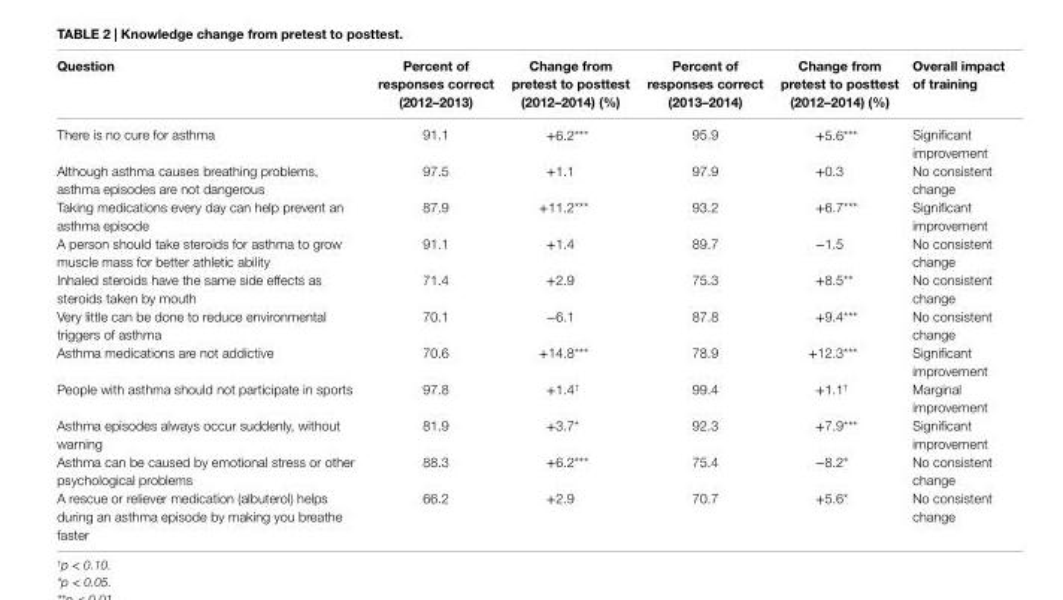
<table><thead><tr><td>Question</td><td>Percent of responses correct (2012–2013)</td><td>change from pretest to posttest (2012–2014) (%)</td><td>Percent of responses correct (2013–2014)</td><td>change from pretest to posttest (2012–2014) (%)</td><td>Overall impact of training</td></tr></thead><tbody><tr><td>There is no cure for asthma</td><td>91.1</td><td>+6.2***</td><td>95.9</td><td>+5.6***</td><td>Significant improvement</td></tr><tr><td>Although asthma causes breathing problems, asthma episodes are not dangerous</td><td>97.5</td><td>+1.1</td><td>97.9</td><td>+0.3</td><td>No consistent change</td></tr><tr><td>Taking medications every day can help prevent an asthma episode</td><td>87.9</td><td>+11.2***</td><td>93.2</td><td>+6.7***</td><td>Significant improvement</td></tr><tr><td>A person should take steroids for asthma to grow muscle mass for better athletic ability</td><td>91.1</td><td>+1.4</td><td>89.7</td><td>−1.5</td><td>No consistent change</td></tr><tr><td>Inhaled steroids have the same side effects as steroids taken by mouth</td><td>71.4</td><td>+2.9</td><td>75.3</td><td>+8.5**</td><td>No consistent change</td></tr><tr><td>Very little can be done to reduce environmental triggers of asthma</td><td>70.1</td><td>−6.1</td><td>87.8</td><td>+9.4***</td><td>No consistent change</td></tr><tr><td>Asthma medications are not addictive</td><td>70.6</td><td>+14.8***</td><td>78.9</td><td>+12.3***</td><td>Significant improvement</td></tr><tr><td>People with asthma should not participate in sports</td><td>97.8</td><td>+1.4<sup>†</sup></td><td>99.4</td><td>+1.1<sup>†</sup></td><td>Marginal improvement</td></tr><tr><td>Asthma episodes always occur suddenly, without warning</td><td>81.9</td><td>+3.7*</td><td>92.3</td><td>+7.9***</td><td>Significant improvement</td></tr><tr><td>Asthma can be caused by emotional stress or other psychological problems</td><td>88.3</td><td>+6.2***</td><td>75.4</td><td>−8.2*</td><td>No consistent change</td></tr><tr><td>A rescue or reliever medication (albuterol) helps during an asthma episode by making you breathe faster</td><td>66.2</td><td>+2.9</td><td>70.7</td><td>+5.6*</td><td>No consistent change</td></tr></tbody></table>